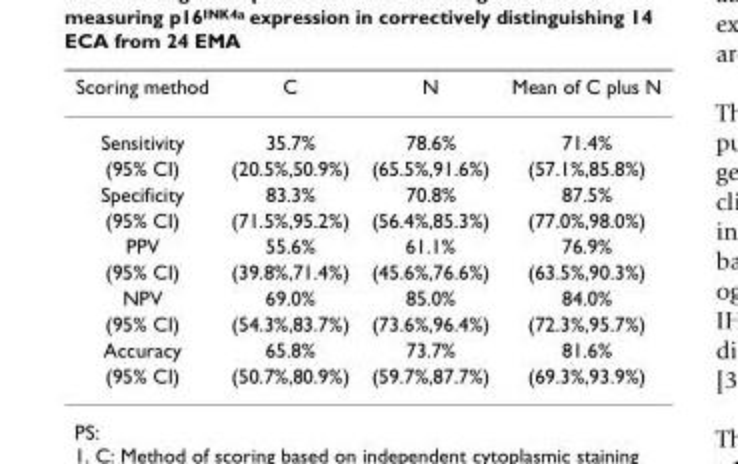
<table><thead><tr><td>Scoring method</td><td>C</td><td>N</td><td>Mean of C plus N</td></tr></thead><tbody><tr><td>Sensitivity</td><td>35.7%</td><td>78.6%</td><td>71.4%</td></tr><tr><td>(95% CI)</td><td>(20.5%,50.9%)</td><td>(65.5%,91.6%)</td><td>(57.1%,85.8%)</td></tr><tr><td>Specificity</td><td>83.3%</td><td>70.8%</td><td>87.5%</td></tr><tr><td>(95% CI)</td><td>(71.5%,95.2%)</td><td>(56.4%,85.3%)</td><td>(77.0%,98.0%)</td></tr><tr><td>PPV</td><td>55.6%</td><td>61.1%</td><td>76.9%</td></tr><tr><td>(95% CI)</td><td>(39.8%,71.4%)</td><td>(45.6%,76.6%)</td><td>(63.5%,90.3%)</td></tr><tr><td>NPV</td><td>69.0%</td><td>85.0%</td><td>84.0%</td></tr><tr><td>(95% CI)</td><td>(54.3%,83.7%)</td><td>(73.6%,96.4%)</td><td>(72.3%,95.7%)</td></tr><tr><td>Accuracy</td><td>65.8%</td><td>73.7%</td><td>81.6%</td></tr><tr><td>(95% CI)</td><td>(50.7%,80.9%)</td><td>(59.7%,87.7%)</td><td>(69.3%,93.9%)</td></tr></tbody></table>